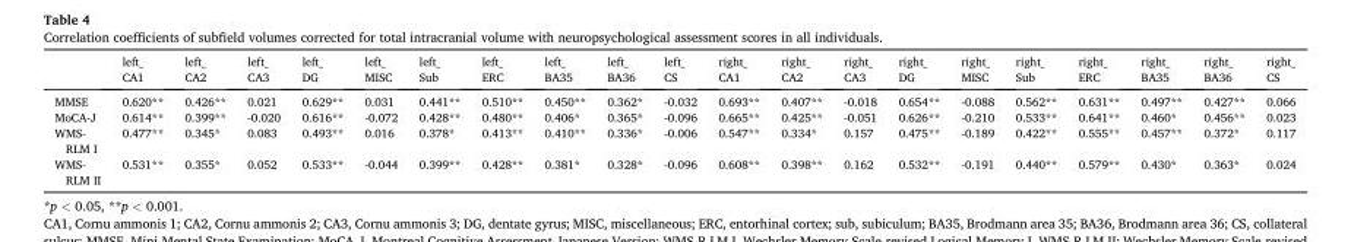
<table><thead><tr><td></td><td>left_ CA1</td><td>left_ CA2</td><td>left_ CA3</td><td>left_ DG</td><td>left_ MISC</td><td>left_ Sub</td><td>left_ ERC</td><td>left_ BA35</td><td>left_ BA36</td><td>left_ CS</td><td>right_ CA1</td><td>right_ CA2</td><td>right_ CA3</td><td>right_ DG</td><td>right_ MISC</td><td>right_ Sub</td><td>right_ ERC</td><td>right_ BA35</td><td>right_ BA36</td><td>right_ CS</td></tr></thead><tbody><tr><td>MMSE</td><td>0.620**</td><td>0.426**</td><td>0.021</td><td>0.629**</td><td>0.031</td><td>0.441**</td><td>0.510**</td><td>0.450**</td><td>0.362*</td><td>-0.032</td><td>0.693**</td><td>0.407**</td><td>-0.018</td><td>0.654**</td><td>-0.088</td><td>0.562**</td><td>0.631**</td><td>0.497**</td><td>0.427**</td><td>0.066</td></tr><tr><td>MoCA-J</td><td>0.614**</td><td>0.399**</td><td>-0.020</td><td>0.616**</td><td>-0.072</td><td>0.428**</td><td>0.480**</td><td>0.406*</td><td>0.365*</td><td>-0.096</td><td>0.665**</td><td>0.425**</td><td>-0.051</td><td>0.626**</td><td>-0.210</td><td>0.533**</td><td>0.641**</td><td>0.460*</td><td>0.456**</td><td>0.023</td></tr><tr><td>WMS- RLM I</td><td>0.477**</td><td>0.345*</td><td>0.083</td><td>0.493**</td><td>0.016</td><td>0.378*</td><td>0.413**</td><td>0.410**</td><td>0.336*</td><td>-0.006</td><td>0.547**</td><td>0.334*</td><td>0.157</td><td>0.475**</td><td>-0.189</td><td>0.422**</td><td>0.555**</td><td>0.457**</td><td>0.372*</td><td>0.117</td></tr><tr><td>WMS- RLM II</td><td>0.531**</td><td>0.355*</td><td>0.052</td><td>0.533**</td><td>-0.044</td><td>0.399**</td><td>0.428**</td><td>0.381*</td><td>0.328*</td><td>-0.096</td><td>0.608**</td><td>0.398**</td><td>0.162</td><td>0.532**</td><td>-0.191</td><td>0.440**</td><td>0.579**</td><td>0.430*</td><td>0.363*</td><td>0.024</td></tr></tbody></table>